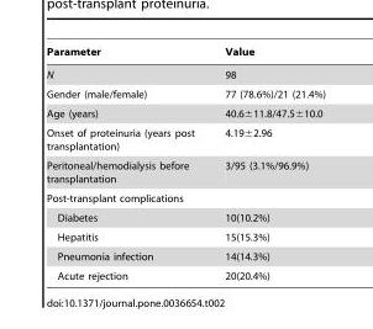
<table><thead><tr><td>Parameter</td><td>Value</td></tr></thead><tbody><tr><td>N</td><td>98</td></tr><tr><td>Gender (male/female)</td><td>77 (78.6%)/21 (21.4%)</td></tr><tr><td>Age (years)</td><td>40.6±11.8/47.5±10.0</td></tr><tr><td>Onset of proteinuria (years post transplantation)</td><td>4.19±2.96</td></tr><tr><td>Peritoneal/hemodialysis before transplantation</td><td>3/95 (3.1%/96.9%)</td></tr><tr><td colspan="2">Post-transplant complications</td></tr><tr><td>Diabetes</td><td>10(10.2%)</td></tr><tr><td>Hepatitis</td><td>15(15.3%)</td></tr><tr><td>Pneumonia infection</td><td>14(14.3%)</td></tr><tr><td>Acute rejection</td><td>20(20.4%)</td></tr></tbody></table>